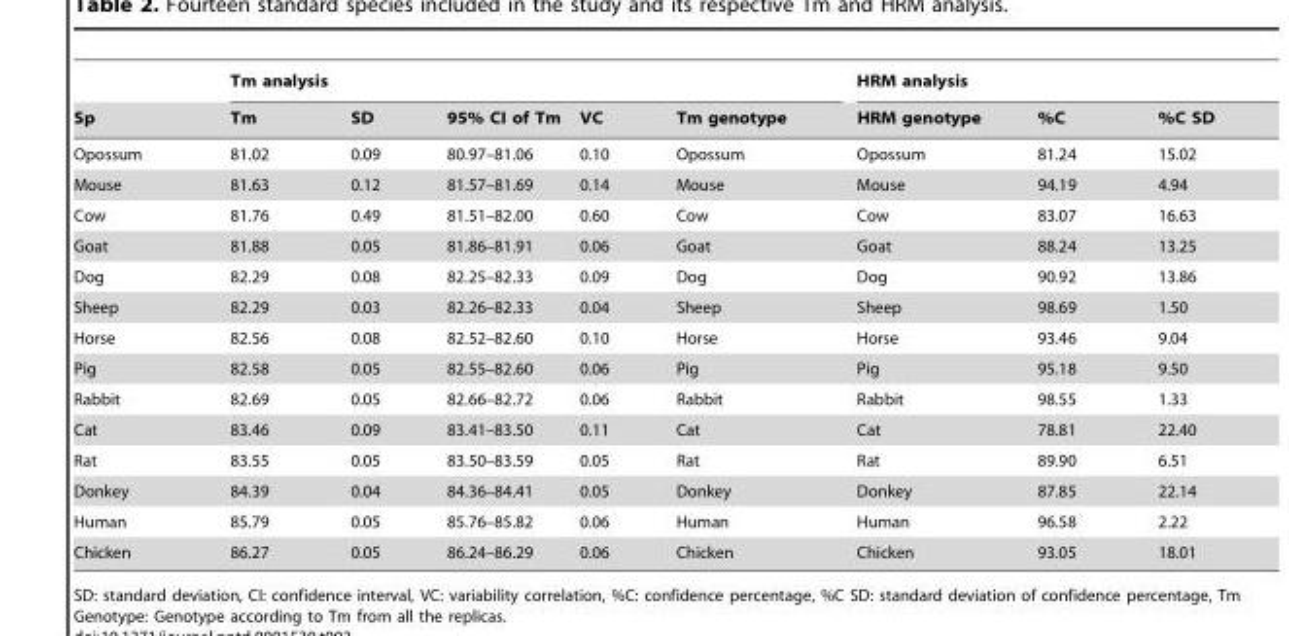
<table><thead><tr><td rowspan="2">Sp</td><td colspan="5">Tm analysis</td><td colspan="3">HRM analysis</td></tr><tr><td>Tm</td><td>SD</td><td>95% CI of Tm</td><td>VC</td><td>Tm genotype</td><td>HRM genotype</td><td>%C</td><td>%C SD</td></tr></thead><tbody><tr><td>Opossum</td><td>81.02</td><td>0.09</td><td>80.97–81.06</td><td>0.10</td><td>Opossum</td><td>Opossum</td><td>81.24</td><td>15.02</td></tr><tr><td>Mouse</td><td>81.63</td><td>0.12</td><td>81.57–81.69</td><td>0.14</td><td>Mouse</td><td>Mouse</td><td>94.19</td><td>4.94</td></tr><tr><td>Cow</td><td>81.76</td><td>0.49</td><td>81.51–82.00</td><td>0.60</td><td>Cow</td><td>Cow</td><td>83.07</td><td>16.63</td></tr><tr><td>Goat</td><td>81.88</td><td>0.05</td><td>81.86–81.91</td><td>0.06</td><td>Goat</td><td>Goat</td><td>88.24</td><td>13.25</td></tr><tr><td>Dog</td><td>82.29</td><td>0.08</td><td>82.25–82.33</td><td>0.09</td><td>Dog</td><td>Dog</td><td>90.92</td><td>13.86</td></tr><tr><td>Sheep</td><td>82.29</td><td>0.03</td><td>82.26–82.33</td><td>0.04</td><td>Sheep</td><td>Sheep</td><td>98.69</td><td>1.50</td></tr><tr><td>Horse</td><td>82.56</td><td>0.08</td><td>82.52–82.60</td><td>0.10</td><td>Horse</td><td>Horse</td><td>93.46</td><td>9.04</td></tr><tr><td>Pig</td><td>82.58</td><td>0.05</td><td>82.55–82.60</td><td>0.06</td><td>Pig</td><td>Pig</td><td>95.18</td><td>9.50</td></tr><tr><td>Rabbit</td><td>82.69</td><td>0.05</td><td>82.66–82.72</td><td>0.06</td><td>Rabbit</td><td>Rabbit</td><td>98.55</td><td>1.33</td></tr><tr><td>Cat</td><td>83.46</td><td>0.09</td><td>83.41–83.50</td><td>0.11</td><td>Cat</td><td>Cat</td><td>78.81</td><td>22.40</td></tr><tr><td>Rat</td><td>83.55</td><td>0.05</td><td>83.50–83.59</td><td>0.05</td><td>Rat</td><td>Rat</td><td>89.90</td><td>6.51</td></tr><tr><td>Donkey</td><td>84.39</td><td>0.04</td><td>84.36–84.41</td><td>0.05</td><td>Donkey</td><td>Donkey</td><td>87.85</td><td>22.14</td></tr><tr><td>Human</td><td>85.79</td><td>0.05</td><td>85.76–85.82</td><td>0.06</td><td>Human</td><td>Human</td><td>96.58</td><td>2.22</td></tr><tr><td>Chicken</td><td>86.27</td><td>0.05</td><td>86.24–86.29</td><td>0.06</td><td>Chicken</td><td>Chicken</td><td>93.05</td><td>18.01</td></tr></tbody></table>